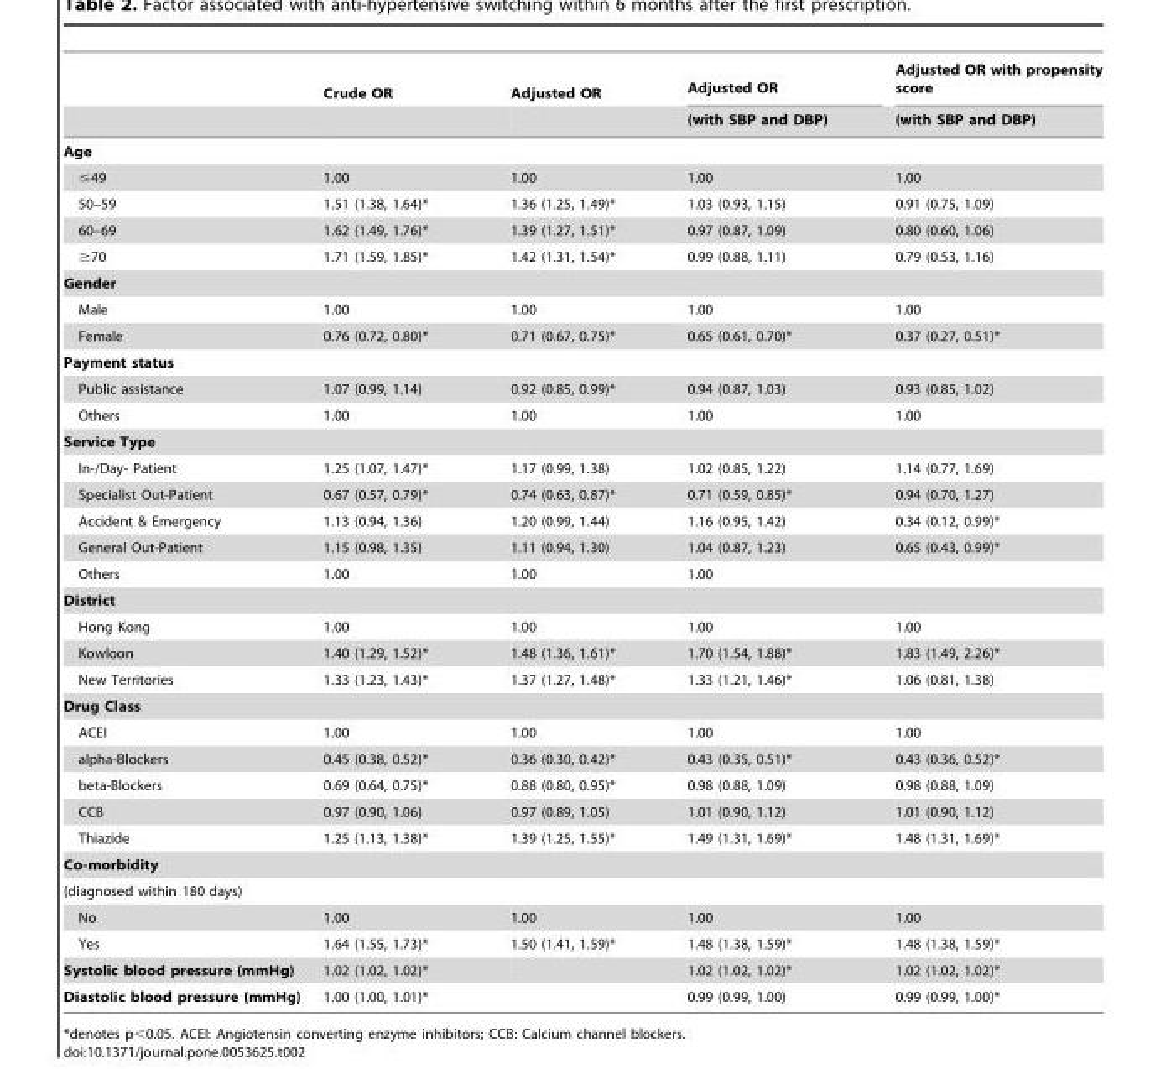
<table><thead><tr><td rowspan="2"></td><td rowspan="2">Crude OR</td><td rowspan="2">Adjusted OR</td><td rowspan="2">Adjusted OR (with SBP and DBP)</td><td rowspan="2">Adjusted OR with propensity score (with SBP and DBP)</td></tr><tr></tr></thead><tbody><tr><td colspan="5">Age</td></tr><tr><td>≤49</td><td>1.00</td><td>1.00</td><td>1.00</td><td>1.00</td></tr><tr><td>50–59</td><td>1.51 (1.38, 1.64)*</td><td>1.36 (1.25, 1.49)*</td><td>1.03 (0.93, 1.15)</td><td>0.91 (0.75, 1.09)</td></tr><tr><td>60–69</td><td>1.62 (1.49, 1.76)*</td><td>1.39 (1.27, 1.51)*</td><td>0.97 (0.87, 1.09)</td><td>0.80 (0.60, 1.06)</td></tr><tr><td>≥70</td><td>1.71 (1.59, 1.85)*</td><td>1.42 (1.31, 1.54)*</td><td>0.99 (0.88, 1.11)</td><td>0.79 (0.53, 1.16)</td></tr><tr><td colspan="5">Gender</td></tr><tr><td>Male</td><td>1.00</td><td>1.00</td><td>1.00</td><td>1.00</td></tr><tr><td>Female</td><td>0.76 (0.72, 0.80)*</td><td>0.71 (0.67, 0.75)*</td><td>0.65 (0.61, 0.70)*</td><td>0.37 (0.27, 0.51)*</td></tr><tr><td colspan="5">Payment status</td></tr><tr><td>Public assistance</td><td>1.07 (0.99, 1.14)</td><td>0.92 (0.85, 0.99)*</td><td>0.94 (0.87, 1.03)</td><td>0.93 (0.85, 1.02)</td></tr><tr><td>Others</td><td>1.00</td><td>1.00</td><td>1.00</td><td>1.00</td></tr><tr><td colspan="5">Service Type</td></tr><tr><td>In-/Day- Patient</td><td>1.25 (1.07, 1.47)*</td><td>1.17 (0.99, 1.38)</td><td>1.02 (0.85, 1.22)</td><td>1.14 (0.77, 1.69)</td></tr><tr><td>Specialist Out-Patient</td><td>0.67 (0.57, 0.79)*</td><td>0.74 (0.63, 0.87)*</td><td>0.71 (0.59, 0.85)*</td><td>0.94 (0.70, 1.27)</td></tr><tr><td>Accident &amp; Emergency</td><td>1.13 (0.94, 1.36)</td><td>1.20 (0.99, 1.44)</td><td>1.16 (0.95, 1.42)</td><td>0.34 (0.12, 0.99)*</td></tr><tr><td>General Out-Patient</td><td>1.15 (0.98, 1.35)</td><td>1.11 (0.94, 1.30)</td><td>1.04 (0.87, 1.23)</td><td>0.65 (0.43, 0.99)*</td></tr><tr><td>Others</td><td>1.00</td><td>1.00</td><td>1.00</td><td></td></tr><tr><td colspan="5">District</td></tr><tr><td>Hong Kong</td><td>1.00</td><td>1.00</td><td>1.00</td><td>1.00</td></tr><tr><td>Kowloon</td><td>1.40 (1.29, 1.52)*</td><td>1.48 (1.36, 1.61)*</td><td>1.70 (1.54, 1.88)*</td><td>1.83 (1.49, 2.26)*</td></tr><tr><td>New Territories</td><td>1.33 (1.23, 1.43)*</td><td>1.37 (1.27, 1.48)*</td><td>1.33 (1.21, 1.46)*</td><td>1.06 (0.81, 1.38)</td></tr><tr><td colspan="5">Drug Class</td></tr><tr><td>ACEI</td><td>1.00</td><td>1.00</td><td>1.00</td><td>1.00</td></tr><tr><td>alpha-Blockers</td><td>0.45 (0.38, 0.52)*</td><td>0.36 (0.30, 0.42)*</td><td>0.43 (0.35, 0.51)*</td><td>0.43 (0.36, 0.52)*</td></tr><tr><td>beta-Blockers</td><td>0.69 (0.64, 0.75)*</td><td>0.88 (0.80, 0.95)*</td><td>0.98 (0.88, 1.09)</td><td>0.98 (0.88, 1.09)</td></tr><tr><td>CCB</td><td>0.97 (0.90, 1.06)</td><td>0.97 (0.89, 1.05)</td><td>1.01 (0.90, 1.12)</td><td>1.01 (0.90, 1.12)</td></tr><tr><td>Thiazide</td><td>1.25 (1.13, 1.38)*</td><td>1.39 (1.25, 1.55)*</td><td>1.49 (1.31, 1.69)*</td><td>1.48 (1.31, 1.69)*</td></tr><tr><td colspan="5">Co-morbidity</td></tr><tr><td colspan="5">(diagnosed within 180 days)</td></tr><tr><td>No</td><td>1.00</td><td>1.00</td><td>1.00</td><td>1.00</td></tr><tr><td>Yes</td><td>1.64 (1.55, 1.73)*</td><td>1.50 (1.41, 1.59)*</td><td>1.48 (1.38, 1.59)*</td><td>1.48 (1.38, 1.59)*</td></tr><tr><td>Systolic blood pressure (mmHg)</td><td>1.02 (1.02, 1.02)*</td><td></td><td>1.02 (1.02, 1.02)*</td><td>1.02 (1.02, 1.02)*</td></tr><tr><td>Diastolic blood pressure (mmHg)</td><td>1.00 (1.00, 1.01)*</td><td></td><td>0.99 (0.99, 1.00)</td><td>0.99 (0.99, 1.00)*</td></tr></tbody></table>